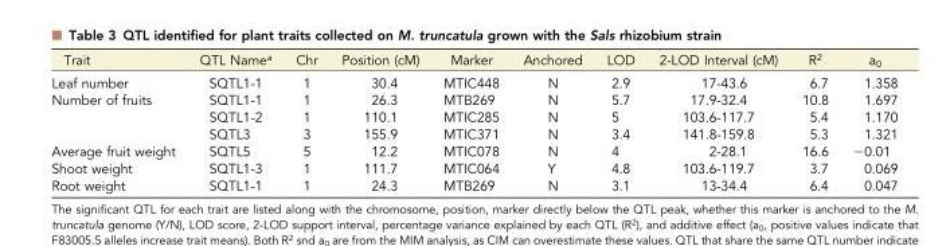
<table><thead><tr><td>Trait</td><td>QTL Name<sup>a</sup></td><td>Chr</td><td>Position (cM)</td><td>Marker</td><td>Anchored</td><td>LOD</td><td>2-LOD Interval (cM)</td><td>R<sup>2</sup></td><td>a<sub>0</sub></td></tr></thead><tbody><tr><td>Leaf number</td><td>SQTL1-1</td><td>1</td><td>30.4</td><td>MTIC448</td><td>N</td><td>2.9</td><td>17-43.6</td><td>6.7</td><td>1.358</td></tr><tr><td rowspan="3">Number of fruits</td><td>SQTL1-1</td><td>1</td><td>26.3</td><td>MTB269</td><td>N</td><td>5.7</td><td>17.9-32.4</td><td>10.8</td><td>1.697</td></tr><tr><td>SQTL1-2</td><td>1</td><td>110.1</td><td>MTIC285</td><td>N</td><td>5</td><td>103.6-117.7</td><td>5.4</td><td>1.170</td></tr><tr><td>SQTL3</td><td>3</td><td>155.9</td><td>MTIC371</td><td>N</td><td>3.4</td><td>141.8-159.8</td><td>5.3</td><td>1.321</td></tr><tr><td>Average fruit weight</td><td>SQTL5</td><td>5</td><td>12.2</td><td>MTIC078</td><td>N</td><td>4</td><td>2-28.1</td><td>16.6</td><td>−0.01</td></tr><tr><td>Shoot weight</td><td>SQTL1-3</td><td>1</td><td>111.7</td><td>MTIC064</td><td>Y</td><td>4.8</td><td>103.6-119.7</td><td>3.7</td><td>0.069</td></tr><tr><td>Root weight</td><td>SQTL1-1</td><td>1</td><td>24.3</td><td>MTB269</td><td>N</td><td>3.1</td><td>13-34.4</td><td>6.4</td><td>0.047</td></tr></tbody></table>